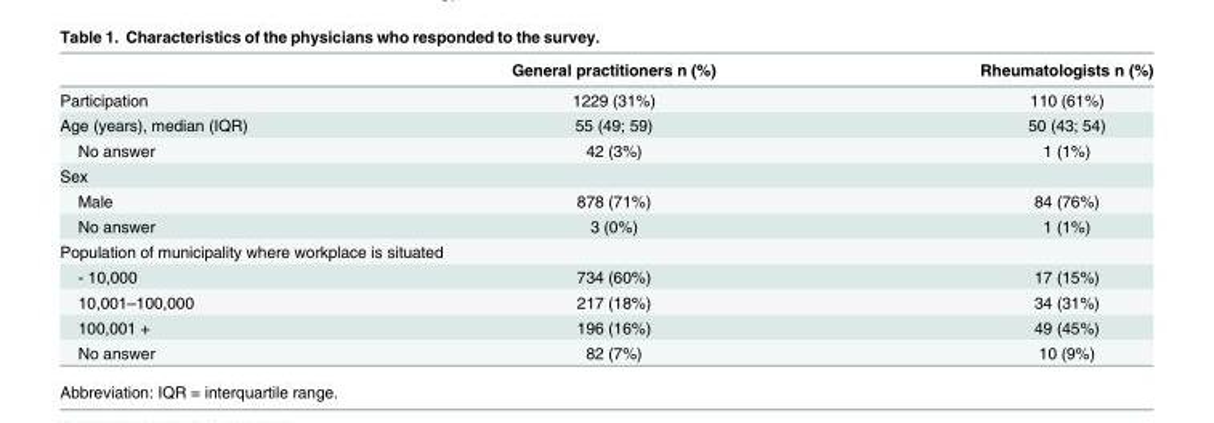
<table><thead><tr><td></td><td>General practitioners n (%)</td><td>Rheumatologists n (%)</td></tr></thead><tbody><tr><td>Participation</td><td>1229 (31%)</td><td>110 (61%)</td></tr><tr><td>Age (years), median (IQR)</td><td>55 (49; 59)</td><td>50 (43; 54)</td></tr><tr><td>No answer</td><td>42 (3%)</td><td>1 (1%)</td></tr><tr><td colspan="3">Sex</td></tr><tr><td>Male</td><td>878 (71%)</td><td>84 (76%)</td></tr><tr><td>No answer</td><td>3 (0%)</td><td>1 (1%)</td></tr><tr><td colspan="3">Population of municipality where workplace is situated</td></tr><tr><td>- 10,000</td><td>734 (60%)</td><td>17 (15%)</td></tr><tr><td>10,001–100,000</td><td>217 (18%)</td><td>34 (31%)</td></tr><tr><td>100,001 +</td><td>196 (16%)</td><td>49 (45%)</td></tr><tr><td>No answer</td><td>82 (7%)</td><td>10 (9%)</td></tr></tbody></table>